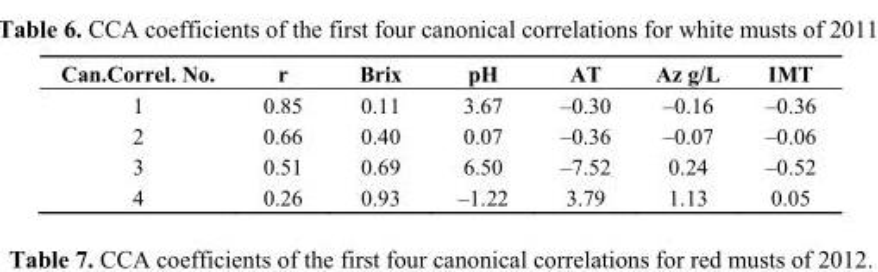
<table><thead><tr><td>Can.Correl. No.</td><td>r</td><td>Brix</td><td>pH</td><td>AT</td><td>Az g/L</td><td>IMT</td></tr></thead><tbody><tr><td>1</td><td>0.85</td><td>0.11</td><td>3.67</td><td>‒0.30</td><td>‒0.16</td><td>‒0.36</td></tr><tr><td>2</td><td>0.66</td><td>0.40</td><td>0.07</td><td>‒0.36</td><td>‒0.07</td><td>‒0.06</td></tr><tr><td>3</td><td>0.51</td><td>0.69</td><td>6.50</td><td>‒7.52</td><td>0.24</td><td>‒0.52</td></tr><tr><td>4</td><td>0.26</td><td>0.93</td><td>‒1.22</td><td>3.79</td><td>1.13</td><td>0.05</td></tr></tbody></table>